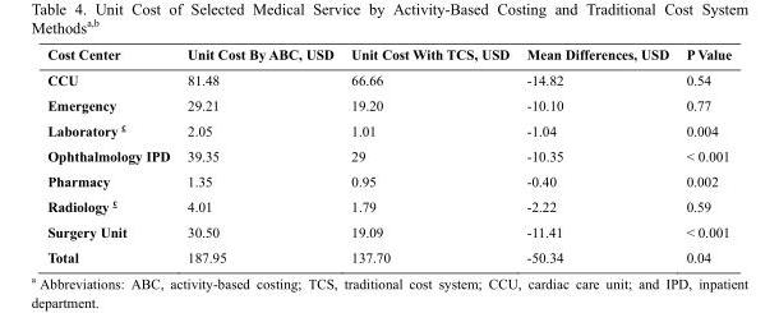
<table><thead><tr><td>Cost Center</td><td>Unit Cost By ABC, USD</td><td>Unit Cost With TCS, USD</td><td>Mean Differences, USD</td><td>P Value</td></tr></thead><tbody><tr><td>CCU</td><td>81.48</td><td>66.66</td><td>-14.82</td><td>0.54</td></tr><tr><td>Emergency</td><td>29.21</td><td>19.20</td><td>-10.10</td><td>0.77</td></tr><tr><td>Laboratory <sup>c</sup></td><td>2.05</td><td>1.01</td><td>-1.04</td><td>0.004</td></tr><tr><td>Ophthalmology IPD</td><td>39.35</td><td>29</td><td>-10.35</td><td>&lt; 0.001</td></tr><tr><td>Pharmacy</td><td>1.35</td><td>0.95</td><td>-0.40</td><td>0.002</td></tr><tr><td>Radiology <sup>c</sup></td><td>4.01</td><td>1.79</td><td>-2.22</td><td>0.59</td></tr><tr><td>Surgery Unit</td><td>30.50</td><td>19.09</td><td>-11.41</td><td>&lt; 0.001</td></tr><tr><td>Total</td><td>187.95</td><td>137.70</td><td>-50.34</td><td>0.04</td></tr></tbody></table>